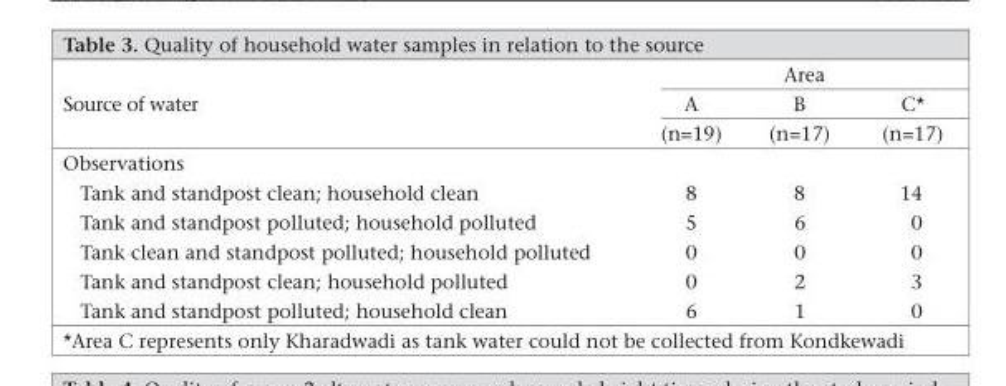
<table><thead><tr><td rowspan="3">Source of water</td><td colspan="3">Area</td></tr><tr><td rowspan="2">A (n=19)</td><td rowspan="2">B (n=17)</td><td rowspan="2">C* (n=17)</td></tr><tr></tr></thead><tbody><tr><td colspan="4">Observations</td></tr><tr><td>Tank and standpost clean; household clean</td><td>8</td><td>8</td><td>14</td></tr><tr><td>Tank and standpost polluted; household polluted</td><td>5</td><td>6</td><td>0</td></tr><tr><td>Tank clean and standpost polluted; household polluted</td><td>0</td><td>0</td><td>0</td></tr><tr><td>Tank and standpost clean; household polluted</td><td>0</td><td>2</td><td>3</td></tr><tr><td>Tank and standpost polluted; household clean</td><td>6</td><td>1</td><td>0</td></tr></tbody></table>